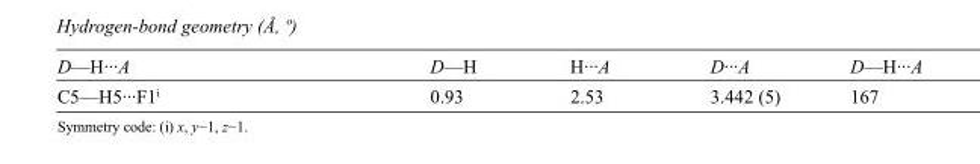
<table><tbody><tr><td>D—H···A</td><td>D—H</td><td>H···A</td><td>D···A</td><td>D—H···A</td></tr><tr><td>C5—H5···F1<sup>i</sup></td><td>0.93</td><td>2.53</td><td>3.442 (5)</td><td>167</td></tr></tbody></table>